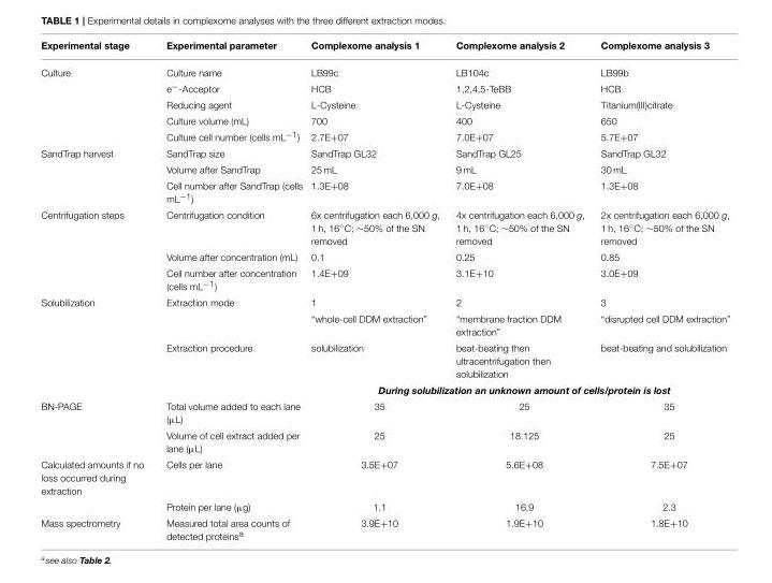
<table><thead><tr><td>Experimental stage</td><td>Experimental parameter</td><td>Complexome analysis 1</td><td>Complexome analysis 2</td><td>Complexome analysis 3</td></tr></thead><tbody><tr><td rowspan="5">Culture</td><td>Culture name</td><td>LB99c</td><td>LB104c</td><td>LB99b</td></tr><tr><td>e<sup>−</sup>-Acceptor</td><td>HCB</td><td>1,2,4,5-TeBB</td><td>HCB</td></tr><tr><td>Reducing agent</td><td>L-Cysteine</td><td>L-Cysteine</td><td>Titanium(III)citrate</td></tr><tr><td>Culture volume (mL)</td><td>700</td><td>400</td><td>650</td></tr><tr><td>Culture cell number (cells mL<sup>−1</sup>)</td><td>2.7E+07</td><td>7.0E+07</td><td>5.7E+07</td></tr><tr><td rowspan="3">SandTrap harvest</td><td>SandTrap size</td><td>SandTrap GL32</td><td>SandTrap GL25</td><td>SandTrap GL32</td></tr><tr><td>Volume after SandTrap</td><td>25 mL</td><td>9 mL</td><td>30 mL</td></tr><tr><td>Cell number after SandTrap (cells mL<sup>−1</sup>)</td><td>1.3E+08</td><td>7.0E+08</td><td>1.3E+08</td></tr><tr><td rowspan="3">Centrifugation steps</td><td>Centrifugation condition</td><td>6x centrifugation each 6,000 g, 1 h, 16◦C; ∼50% of the SN removed</td><td>4x centrifugation each 6,000 g, 1 h, 16◦C; ∼50% of the SN removed</td><td>2x centrifugation each 6,000 g, 1 h, 16◦C; ∼50% of the SN removed</td></tr><tr><td>Volume after concentration (mL)</td><td>0.1</td><td>0.25</td><td>0.85</td></tr><tr><td>Cell number after concentration (cells mL<sup>−1</sup>)</td><td>1.4E+09</td><td>3.1E+10</td><td>3.0E+09</td></tr><tr><td rowspan="4">Solubilization</td><td>Extraction mode</td><td>1</td><td>2</td><td>3</td></tr><tr><td></td><td>“whole-cell DDM extraction”</td><td>“membrane fraction DDM extraction”</td><td>“disrupted cell DDM extraction”</td></tr><tr><td>Extraction procedure</td><td>solubilization</td><td>beat-beating then ultracentrifugation then solubilization</td><td>beat-beating and solubilization</td></tr><tr><td></td><td colspan="3">During solubilization an unknown amount of cells/protein is lost</td></tr><tr><td rowspan="2">BN-PAGE</td><td>Total volume added to each lane (µL)</td><td>35</td><td>25</td><td>35</td></tr><tr><td>Volume of cell extract added per lane (µL)</td><td>25</td><td>18.125</td><td>25</td></tr><tr><td rowspan="2">Calculated amounts if no loss occurred during extraction</td><td>Cells per lane</td><td>3.5E+07</td><td>5.6E+08</td><td>7.5E+07</td></tr><tr><td>Protein per lane (µg)</td><td>1.1</td><td>16.9</td><td>2.3</td></tr><tr><td>Mass spectrometry</td><td>Measured total area counts of detected proteins<sup>a</sup></td><td>3.9E+10</td><td>1.9E+10</td><td>1.8E+10</td></tr></tbody></table>